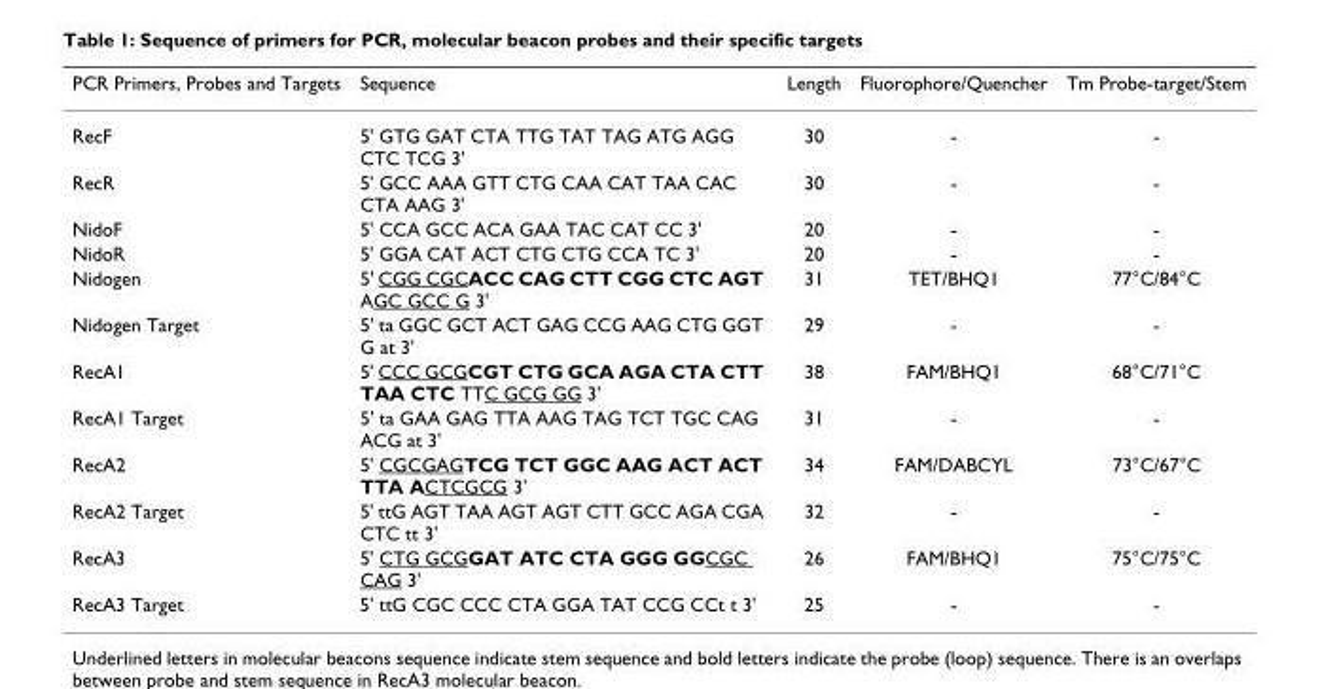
<table><thead><tr><td>PCR Primers, Probes and Targets</td><td>Sequence</td><td>Length</td><td>Fluorophore/Quencher</td><td>Tm Probe-target/Stem</td></tr></thead><tbody><tr><td>RecF</td><td>5&#x27; GTG GAT CTA TTG TAT TAG ATG AGG CTC TCG 3&#x27;</td><td>30</td><td>-</td><td>-</td></tr><tr><td>RecR</td><td>5&#x27; GCC AAA GTT CTG CAA CAT TAA CAC CTA AAG 3&#x27;</td><td>30</td><td>-</td><td>-</td></tr><tr><td>NidoF</td><td>5&#x27; CCA GCC ACA GAA TAC CAT CC 3&#x27;</td><td>20</td><td>-</td><td>-</td></tr><tr><td>NidoR</td><td>5&#x27; GGA CAT ACT CTG CTG CCA TC 3&#x27;</td><td>20</td><td>-</td><td>-</td></tr><tr><td>Nidogen</td><td>5&#x27; CGG CGCACC CAG CTT CGG CTC AGT AGC GCC G 3&#x27;</td><td>31</td><td>TET/BHQ1</td><td>77°C/84°C</td></tr><tr><td>Nidogen Target</td><td>5&#x27; ta GGC GCT ACT GAG CCG AAG CTG GGT G at 3&#x27;</td><td>29</td><td>-</td><td>-</td></tr><tr><td>RecA1</td><td>5&#x27; CCC GCGCGT CTG GCA AGA CTA CTT TAA CTC TTC GCG GG 3&#x27;</td><td>38</td><td>FAM/BHQ1</td><td>68°C/71°C</td></tr><tr><td>RecA1 Target</td><td>5&#x27; ta GAA GAG TTA AAG TAG TCT TGC CAG ACG at 3&#x27;</td><td>31</td><td>-</td><td>-</td></tr><tr><td>RecA2</td><td>5&#x27; CGCGAGTCG TCT GGC AAG ACT ACT TTA ACTCGCG 3&#x27;</td><td>34</td><td>FAM/DABCYL</td><td>73°C/67°C</td></tr><tr><td>RecA2 Target</td><td>5&#x27; ttG AGT TAA AGT AGT CTT GCC AGA CGA CTC tt 3&#x27;</td><td>32</td><td>-</td><td>-</td></tr><tr><td>RecA3</td><td>5&#x27; CTG GCGGAT ATC CTA GGG GGCGC CAG 3&#x27;</td><td>26</td><td>FAM/BHQ1</td><td>75°C/75°C</td></tr><tr><td>RecA3 Target</td><td>5&#x27; ttG CGC CCC CTA GGA TAT CCG CCt t 3&#x27;</td><td>25</td><td>-</td><td>-</td></tr></tbody></table>